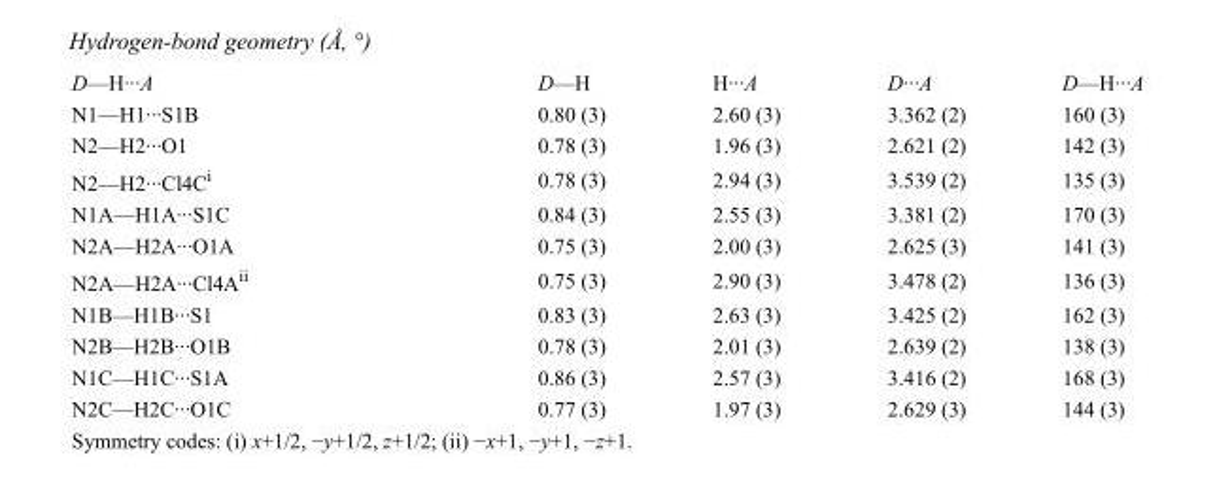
<table><tbody><tr><td>D—H···A</td><td>D—H</td><td>H···A</td><td>D···A</td><td>D—H···A</td></tr><tr><td>N1—H1···S1B</td><td>0.80 (3)</td><td>2.60 (3)</td><td>3.362 (2)</td><td>160 (3)</td></tr><tr><td>N2—H2···O1</td><td>0.78 (3)</td><td>1.96 (3)</td><td>2.621 (2)</td><td>142 (3)</td></tr><tr><td>N2—H2···Cl4C<sup>i</sup></td><td>0.78 (3)</td><td>2.94 (3)</td><td>3.539 (2)</td><td>135 (3)</td></tr><tr><td>N1A—H1A···S1C</td><td>0.84 (3)</td><td>2.55 (3)</td><td>3.381 (2)</td><td>170 (3)</td></tr><tr><td>N2A—H2A···O1A</td><td>0.75 (3)</td><td>2.00 (3)</td><td>2.625 (3)</td><td>141 (3)</td></tr><tr><td>N2A—H2A···Cl4A<sup>ii</sup></td><td>0.75 (3)</td><td>2.90 (3)</td><td>3.478 (2)</td><td>136 (3)</td></tr><tr><td>N1B—H1B···S1</td><td>0.83 (3)</td><td>2.63 (3)</td><td>3.425 (2)</td><td>162 (3)</td></tr><tr><td>N2B—H2B···O1B</td><td>0.78 (3)</td><td>2.01 (3)</td><td>2.639 (2)</td><td>138 (3)</td></tr><tr><td>N1C—H1C···S1A</td><td>0.86 (3)</td><td>2.57 (3)</td><td>3.416 (2)</td><td>168 (3)</td></tr><tr><td>N2C—H2C···O1C</td><td>0.77 (3)</td><td>1.97 (3)</td><td>2.629 (3)</td><td>144 (3)</td></tr></tbody></table>